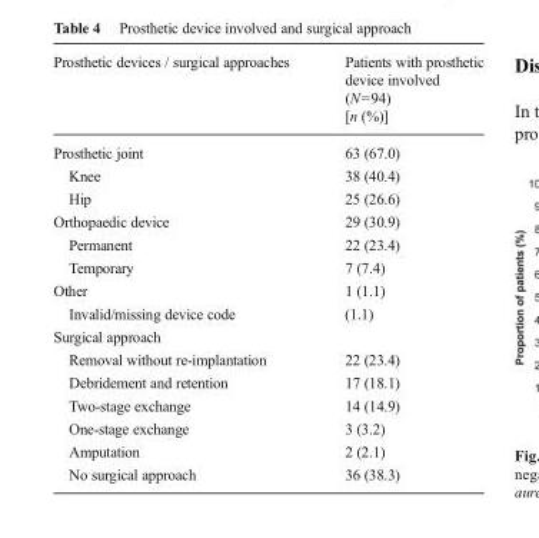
<table><thead><tr><td>Prosthetic devices / surgical approaches</td><td>Patients with prosthetic device involved (N=94) [n (%)]</td></tr></thead><tbody><tr><td>Prosthetic joint</td><td>63 (67.0)</td></tr><tr><td>Knee</td><td>38 (40.4)</td></tr><tr><td>Hip</td><td>25 (26.6)</td></tr><tr><td>Orthopaedic device</td><td>29 (30.9)</td></tr><tr><td>Permanent</td><td>22 (23.4)</td></tr><tr><td>Temporary</td><td>7 (7.4)</td></tr><tr><td>Other</td><td>1 (1.1)</td></tr><tr><td>Invalid/missing device code</td><td>(1.1)</td></tr><tr><td colspan="2">Surgical approach</td></tr><tr><td>Removal without re-implantation</td><td>22 (23.4)</td></tr><tr><td>Debridement and retention</td><td>17 (18.1)</td></tr><tr><td>Two-stage exchange</td><td>14 (14.9)</td></tr><tr><td>One-stage exchange</td><td>3 (3.2)</td></tr><tr><td>Amputation</td><td>2 (2.1)</td></tr><tr><td>No surgical approach</td><td>36 (38.3)</td></tr></tbody></table>